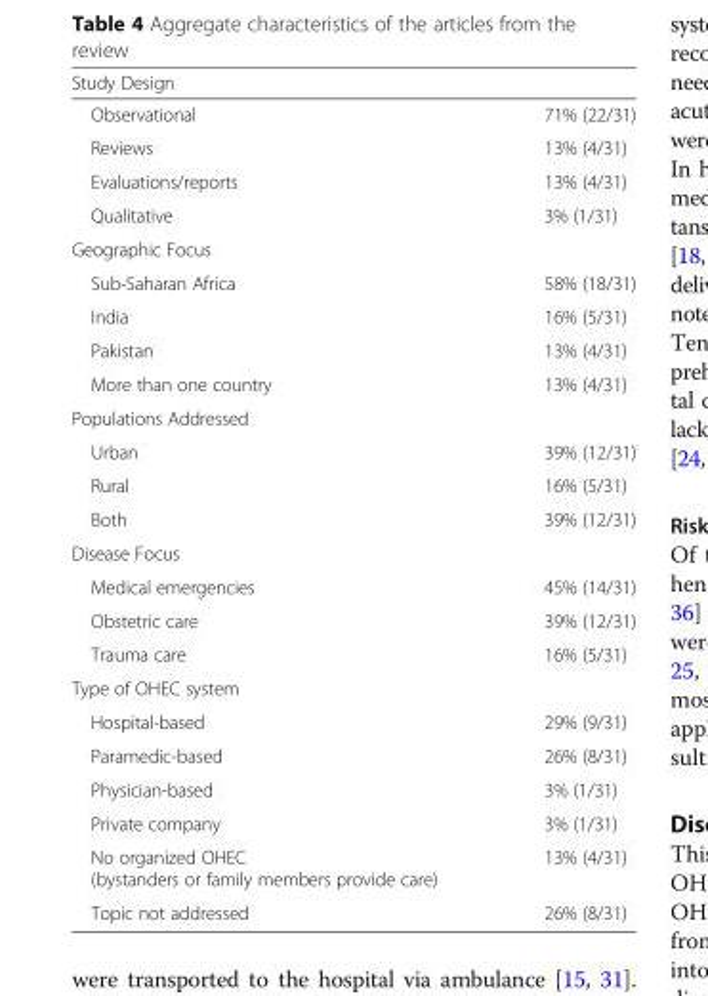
<table><thead><tr><td colspan="2">Study Design</td></tr><tr><td>Observational</td><td>71% (22/31)</td></tr></thead><tbody><tr><td>Reviews</td><td>13% (4/31)</td></tr><tr><td>Evaluations/reports</td><td>13% (4/31)</td></tr><tr><td>Qualitative</td><td>3% (1/31)</td></tr><tr><td colspan="2">Geographic Focus</td></tr><tr><td>Sub-Saharan Africa</td><td>58% (18/31)</td></tr><tr><td>India</td><td>16% (5/31)</td></tr><tr><td>Pakistan</td><td>13% (4/31)</td></tr><tr><td>More than one country</td><td>13% (4/31)</td></tr><tr><td colspan="2">Populations Addressed</td></tr><tr><td>Urban</td><td>39% (12/31)</td></tr><tr><td>Rural</td><td>16% (5/31)</td></tr><tr><td>Both</td><td>39% (12/31)</td></tr><tr><td colspan="2">Disease Focus</td></tr><tr><td>Medical emergencies</td><td>45% (14/31)</td></tr><tr><td>Obstetric care</td><td>39% (12/31)</td></tr><tr><td>Trauma care</td><td>16% (5/31)</td></tr><tr><td colspan="2">Type of OHEC system</td></tr><tr><td>Hospital-based</td><td>29% (9/31)</td></tr><tr><td>Paramedic-based</td><td>26% (8/31)</td></tr><tr><td>Physician-based</td><td>3% (1/31)</td></tr><tr><td>Private company</td><td>3% (1/31)</td></tr><tr><td>No organized OHEC (bystanders or family members provide care)</td><td>13% (4/31)</td></tr><tr><td>Topic not addressed</td><td>26% (8/31)</td></tr></tbody></table>